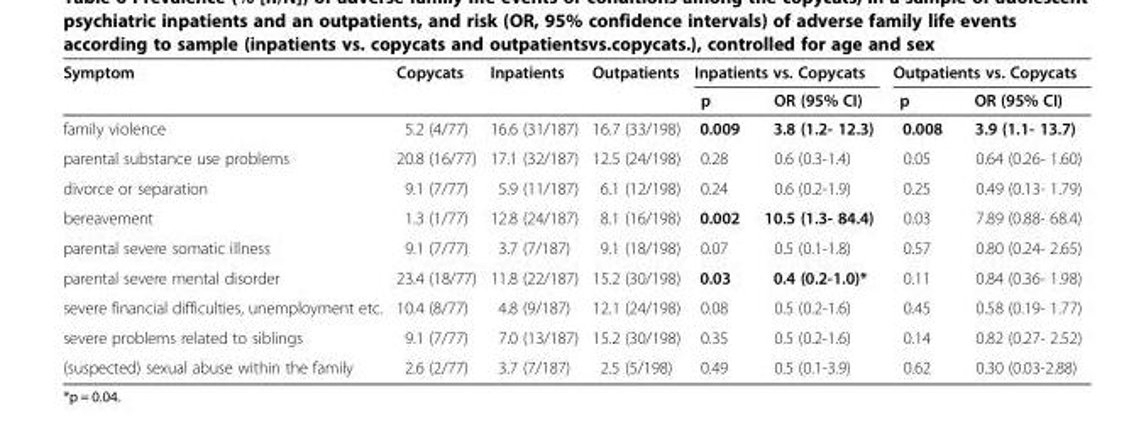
<table><thead><tr><td rowspan="2">Symptom</td><td rowspan="2">Copycats</td><td rowspan="2">Inpatients</td><td rowspan="2">Outpatients</td><td colspan="2">Inpatients vs. Copycats</td><td colspan="2">Outpatients vs. Copycats</td></tr><tr><td>p</td><td>OR (95% CI)</td><td>p</td><td>OR (95% CI)</td></tr></thead><tbody><tr><td>family violence</td><td>5.2 (4/77)</td><td>16.6 (31/187)</td><td>16.7 (33/198)</td><td>0.009</td><td>3.8 (1.2- 12.3)</td><td>0.008</td><td>3.9 (1.1- 13.7)</td></tr><tr><td>parental substance use problems</td><td>20.8 (16/77)</td><td>17.1 (32/187)</td><td>12.5 (24/198)</td><td>0.28</td><td>0.6 (0.3-1.4)</td><td>0.05</td><td>0.64 (0.26- 1.60)</td></tr><tr><td>divorce or separation</td><td>9.1 (7/77)</td><td>5.9 (11/187)</td><td>6.1 (12/198)</td><td>0.24</td><td>0.6 (0.2-1.9)</td><td>0.25</td><td>0.49 (0.13- 1.79)</td></tr><tr><td>bereavement</td><td>1.3 (1/77)</td><td>12.8 (24/187)</td><td>8.1 (16/198)</td><td>0.002</td><td>10.5 (1.3- 84.4)</td><td>0.03</td><td>7.89 (0.88- 68.4)</td></tr><tr><td>parental severe somatic illness</td><td>9.1 (7/77)</td><td>3.7 (7/187)</td><td>9.1 (18/198)</td><td>0.07</td><td>0.5 (0.1-1.8)</td><td>0.57</td><td>0.80 (0.24- 2.65)</td></tr><tr><td>parental severe mental disorder</td><td>23.4 (18/77)</td><td>11.8 (22/187)</td><td>15.2 (30/198)</td><td>0.03</td><td>0.4 (0.2-1.0)*</td><td>0.11</td><td>0.84 (0.36- 1.98)</td></tr><tr><td>severe financial difficulties, unemployment etc.</td><td>10.4 (8/77)</td><td>4.8 (9/187)</td><td>12.1 (24/198)</td><td>0.08</td><td>0.5 (0.2-1.6)</td><td>0.45</td><td>0.58 (0.19- 1.77)</td></tr><tr><td>severe problems related to siblings</td><td>9.1 (7/77)</td><td>7.0 (13/187)</td><td>15.2 (30/198)</td><td>0.35</td><td>0.5 (0.2-1.6)</td><td>0.14</td><td>0.82 (0.27- 2.52)</td></tr><tr><td>(suspected) sexual abuse within the family</td><td>2.6 (2/77)</td><td>3.7 (7/187)</td><td>2.5 (5/198)</td><td>0.49</td><td>0.5 (0.1-3.9)</td><td>0.62</td><td>0.30 (0.03-2.88)</td></tr></tbody></table>